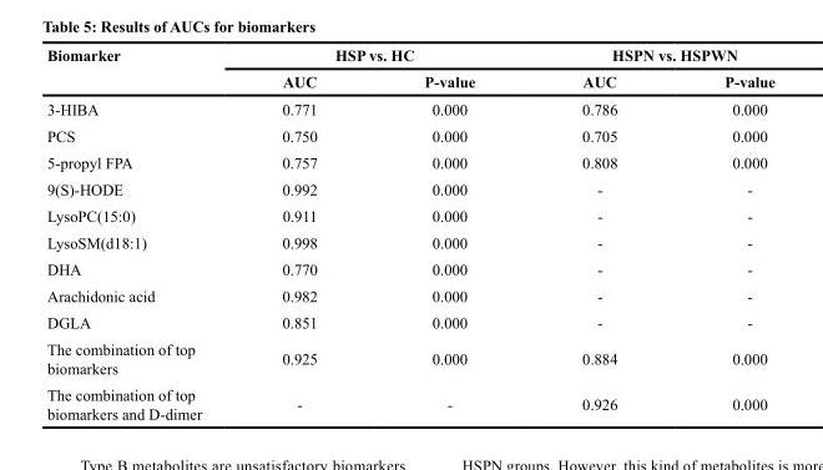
<table><thead><tr><td rowspan="2">Biomarker</td><td colspan="2">HSP vs. HC</td><td colspan="2">HSPN vs. HSPWN</td></tr><tr><td>AUC</td><td>P-value</td><td>AUC</td><td>P-value</td></tr></thead><tbody><tr><td>3-HIBA</td><td>0.771</td><td>0.000</td><td>0.786</td><td>0.000</td></tr><tr><td>PCS</td><td>0.750</td><td>0.000</td><td>0.705</td><td>0.000</td></tr><tr><td>5-propyl FPA</td><td>0.757</td><td>0.000</td><td>0.808</td><td>0.000</td></tr><tr><td>9(S)-HODE</td><td>0.992</td><td>0.000</td><td>-</td><td>-</td></tr><tr><td>LysoPC(15:0)</td><td>0.911</td><td>0.000</td><td>-</td><td>-</td></tr><tr><td>LysoSM(d18:1)</td><td>0.998</td><td>0.000</td><td>-</td><td>-</td></tr><tr><td>DHA</td><td>0.770</td><td>0.000</td><td>-</td><td>-</td></tr><tr><td>Arachidonic acid</td><td>0.982</td><td>0.000</td><td>-</td><td>-</td></tr><tr><td>DGLA</td><td>0.851</td><td>0.000</td><td>-</td><td>-</td></tr><tr><td>The combination of top biomarkers</td><td>0.925</td><td>0.000</td><td>0.884</td><td>0.000</td></tr><tr><td>The combination of top biomarkers and D-dimer</td><td>-</td><td>-</td><td>0.926</td><td>0.000</td></tr></tbody></table>